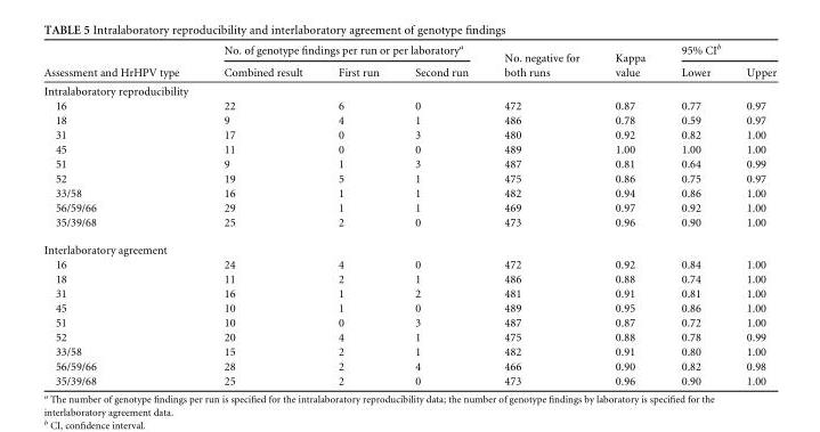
<table><thead><tr><td rowspan="2">Assessment and HrHPV type</td><td colspan="3">No. of genotype findings per run or per laboratory<sup>a</sup></td><td rowspan="2">No. negative for both runs</td><td rowspan="2">Kappa value</td><td colspan="2">95% CI<sup>b</sup></td></tr><tr><td>Combined result</td><td>First run</td><td>Second run</td><td>Lower</td><td>Upper</td></tr></thead><tbody><tr><td colspan="8">Intralaboratory reproducibility</td></tr><tr><td>16</td><td>22</td><td>6</td><td>0</td><td>472</td><td>0.87</td><td>0.77</td><td>0.97</td></tr><tr><td>18</td><td>9</td><td>4</td><td>1</td><td>486</td><td>0.78</td><td>0.59</td><td>0.97</td></tr><tr><td>31</td><td>17</td><td>0</td><td>3</td><td>480</td><td>0.92</td><td>0.82</td><td>1.00</td></tr><tr><td>45</td><td>11</td><td>0</td><td>0</td><td>489</td><td>1.00</td><td>1.00</td><td>1.00</td></tr><tr><td>51</td><td>9</td><td>1</td><td>3</td><td>487</td><td>0.81</td><td>0.64</td><td>0.99</td></tr><tr><td>52</td><td>19</td><td>5</td><td>1</td><td>475</td><td>0.86</td><td>0.75</td><td>0.97</td></tr><tr><td>33/58</td><td>16</td><td>1</td><td>1</td><td>482</td><td>0.94</td><td>0.86</td><td>1.00</td></tr><tr><td>56/59/66</td><td>29</td><td>1</td><td>1</td><td>469</td><td>0.97</td><td>0.92</td><td>1.00</td></tr><tr><td>35/39/68</td><td>25</td><td>2</td><td>0</td><td>473</td><td>0.96</td><td>0.90</td><td>1.00</td></tr><tr><td colspan="8">Interlaboratory agreement</td></tr><tr><td>16</td><td>24</td><td>4</td><td>0</td><td>472</td><td>0.92</td><td>0.84</td><td>1.00</td></tr><tr><td>18</td><td>11</td><td>2</td><td>1</td><td>486</td><td>0.88</td><td>0.74</td><td>1.00</td></tr><tr><td>31</td><td>16</td><td>1</td><td>2</td><td>481</td><td>0.91</td><td>0.81</td><td>1.00</td></tr><tr><td>45</td><td>10</td><td>1</td><td>0</td><td>489</td><td>0.95</td><td>0.86</td><td>1.00</td></tr><tr><td>51</td><td>10</td><td>0</td><td>3</td><td>487</td><td>0.87</td><td>0.72</td><td>1.00</td></tr><tr><td>52</td><td>20</td><td>4</td><td>1</td><td>475</td><td>0.88</td><td>0.78</td><td>0.99</td></tr><tr><td>33/58</td><td>15</td><td>2</td><td>1</td><td>482</td><td>0.91</td><td>0.80</td><td>1.00</td></tr><tr><td>56/59/66</td><td>28</td><td>2</td><td>4</td><td>466</td><td>0.90</td><td>0.82</td><td>0.98</td></tr><tr><td>35/39/68</td><td>25</td><td>2</td><td>0</td><td>473</td><td>0.96</td><td>0.90</td><td>1.00</td></tr></tbody></table>